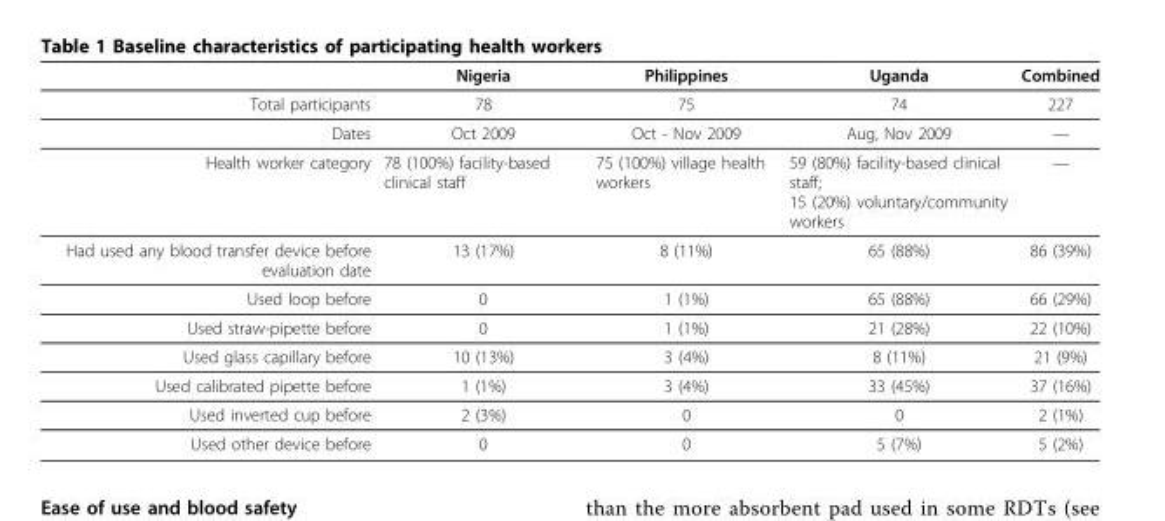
<table><thead><tr><td></td><td>Nigeria</td><td>Philippines</td><td>Uganda</td><td>Combined</td></tr></thead><tbody><tr><td>Total participants</td><td>78</td><td>75</td><td>74</td><td>227</td></tr><tr><td>Dates</td><td>Oct 2009</td><td>Oct - Nov 2009</td><td>Aug, Nov 2009</td><td>—</td></tr><tr><td>Health worker category</td><td>78 (100%) facility-based clinical staff</td><td>75 (100%) village health workers</td><td>59 (80%) facility-based clinical staff; 15 (20%) voluntary/community workers</td><td>—</td></tr><tr><td>Had used any blood transfer device before evaluation date</td><td>13 (17%)</td><td>8 (11%)</td><td>65 (88%)</td><td>86 (39%)</td></tr><tr><td>Used loop before</td><td>0</td><td>1 (1%)</td><td>65 (88%)</td><td>66 (29%)</td></tr><tr><td>Used straw-pipette before</td><td>0</td><td>1 (1%)</td><td>21 (28%)</td><td>22 (10%)</td></tr><tr><td>Used glass capillary before</td><td>10 (13%)</td><td>3 (4%)</td><td>8 (11%)</td><td>21 (9%)</td></tr><tr><td>Used calibrated pipette before</td><td>1 (1%)</td><td>3 (4%)</td><td>33 (45%)</td><td>37 (16%)</td></tr><tr><td>Used inverted cup before</td><td>2 (3%)</td><td>0</td><td>0</td><td>2 (1%)</td></tr><tr><td>Used other device before</td><td>0</td><td>0</td><td>5 (7%)</td><td>5 (2%)</td></tr></tbody></table>